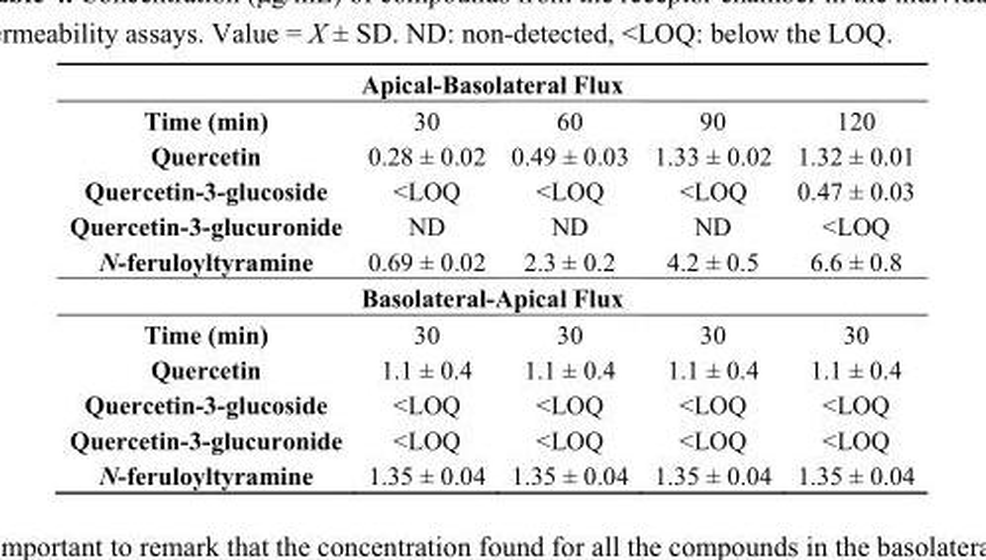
<table><thead><tr><td colspan="5">Apical-Basolateral Flux</td></tr><tr><td>Time (min)</td><td>30</td><td>60</td><td>90</td><td>120</td></tr></thead><tbody><tr><td>Quercetin</td><td>0.28 ± 0.02</td><td>0.49 ± 0.03</td><td>1.33 ± 0.02</td><td>1.32 ± 0.01</td></tr><tr><td>Quercetin-3-glucoside</td><td>&lt;LOQ</td><td>&lt;LOQ</td><td>&lt;LOQ</td><td>0.47 ± 0.03</td></tr><tr><td>Quercetin-3-glucuronide</td><td>ND</td><td>ND</td><td>ND</td><td>&lt;LOQ</td></tr><tr><td>N-feruloyltyramine</td><td>0.69 ± 0.02</td><td>2.3 ± 0.2</td><td>4.2 ± 0.5</td><td>6.6 ± 0.8</td></tr><tr><td colspan="5">Basolateral-Apical Flux</td></tr><tr><td>Time (min)</td><td>30</td><td>30</td><td>30</td><td>30</td></tr><tr><td>Quercetin</td><td>1.1 ± 0.4</td><td>1.1 ± 0.4</td><td>1.1 ± 0.4</td><td>1.1 ± 0.4</td></tr><tr><td>Quercetin-3-glucoside</td><td>&lt;LOQ</td><td>&lt;LOQ</td><td>&lt;LOQ</td><td>&lt;LOQ</td></tr><tr><td>Quercetin-3-glucuronide</td><td>&lt;LOQ</td><td>&lt;LOQ</td><td>&lt;LOQ</td><td>&lt;LOQ</td></tr><tr><td>N-feruloyltyramine</td><td>1.35 ± 0.04</td><td>1.35 ± 0.04</td><td>1.35 ± 0.04</td><td>1.35 ± 0.04</td></tr></tbody></table>